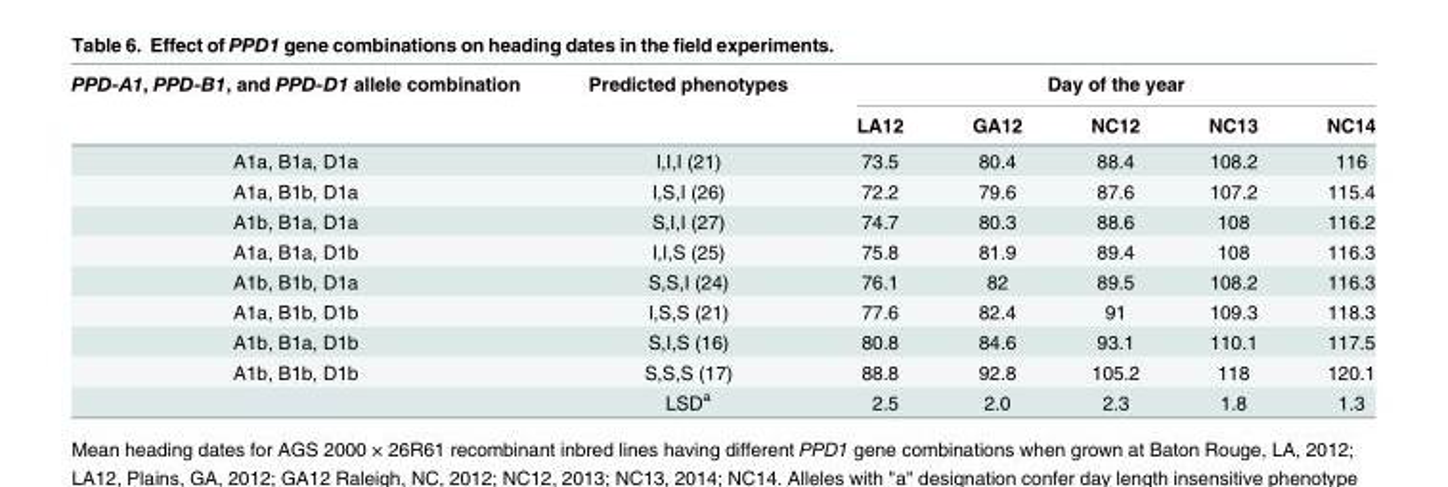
<table><thead><tr><td rowspan="2">PPD-A1, PPD-B1, and PPD-D1 allele combination</td><td rowspan="2">Predicted phenotypes</td><td colspan="5">Day of the year</td></tr><tr><td>LA12</td><td>GA12</td><td>NC12</td><td>NC13</td><td>NC14</td></tr></thead><tbody><tr><td>A1a, B1a, D1a</td><td>I,I,I (21)</td><td>73.5</td><td>80.4</td><td>88.4</td><td>108.2</td><td>116</td></tr><tr><td>A1a, B1b, D1a</td><td>I,S,I (26)</td><td>72.2</td><td>79.6</td><td>87.6</td><td>107.2</td><td>115.4</td></tr><tr><td>A1b, B1a, D1a</td><td>S,I,I (27)</td><td>74.7</td><td>80.3</td><td>88.6</td><td>108</td><td>116.2</td></tr><tr><td>A1a, B1a, D1b</td><td>I,I,S (25)</td><td>75.8</td><td>81.9</td><td>89.4</td><td>108</td><td>116.3</td></tr><tr><td>A1b, B1b, D1a</td><td>S,S,I (24)</td><td>76.1</td><td>82</td><td>89.5</td><td>108.2</td><td>116.3</td></tr><tr><td>A1a, B1b, D1b</td><td>I,S,S (21)</td><td>77.6</td><td>82.4</td><td>91</td><td>109.3</td><td>118.3</td></tr><tr><td>A1b, B1a, D1b</td><td>S,I,S (16)</td><td>80.8</td><td>84.6</td><td>93.1</td><td>110.1</td><td>117.5</td></tr><tr><td rowspan="2">A1b, B1b, D1b</td><td>S,S,S (17)</td><td>88.8</td><td>92.8</td><td>105.2</td><td>118</td><td>120.1</td></tr><tr><td>LSD<sup>a</sup></td><td>2.5</td><td>2.0</td><td>2.3</td><td>1.8</td><td>1.3</td></tr></tbody></table>